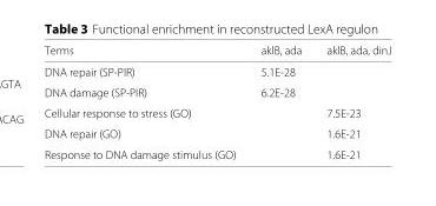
<table><thead><tr><td>Terms</td><td>aklB, ada</td><td>aklB, ada, dinJ</td></tr></thead><tbody><tr><td>DNA repair (SP-PIR)</td><td>5.1E-28</td><td></td></tr><tr><td>DNA damage (SP-PIR)</td><td>6.2E-28</td><td></td></tr><tr><td>Cellular response to stress (GO)</td><td></td><td>7.5E-23</td></tr><tr><td>DNA repair (GO)</td><td></td><td>1.6E-21</td></tr><tr><td>Response to DNA damage stimulus (GO)</td><td></td><td>1.6E-21</td></tr></tbody></table>